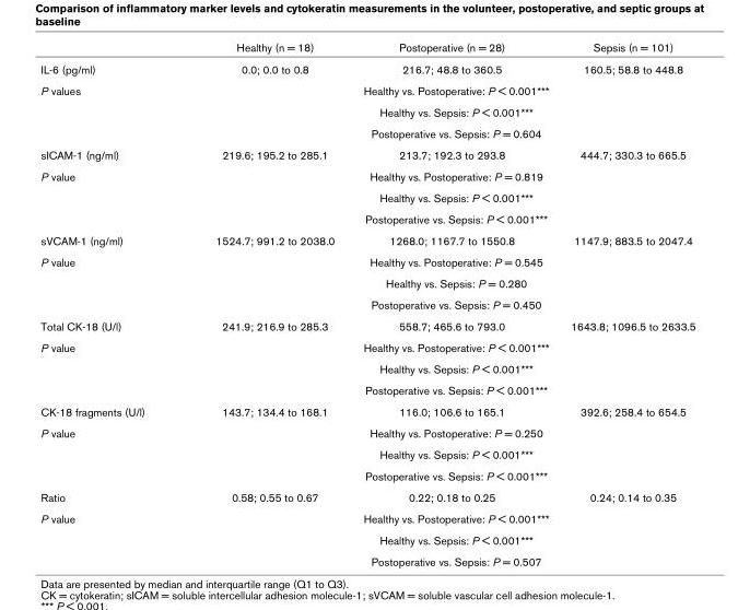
<table><thead><tr><td></td><td>Healthy (n = 18)</td><td>Postoperative (n = 28)</td><td>Sepsis (n = 101)</td></tr></thead><tbody><tr><td>IL-6 (pg/ml)</td><td>0.0; 0.0 to 0.8</td><td>216.7; 48.8 to 360.5</td><td>160.5; 58.8 to 448.8</td></tr><tr><td rowspan="3">P values</td><td colspan="3">Healthy vs. Postoperative: P &lt; 0.001***</td></tr><tr><td colspan="3">Healthy vs. Sepsis: P &lt; 0.001***</td></tr><tr><td colspan="3">Postoperative vs. Sepsis: P = 0.604</td></tr><tr><td>sICAM-1 (ng/ml)</td><td>219.6; 195.2 to 285.1</td><td>213.7; 192.3 to 293.8</td><td>444.7; 330.3 to 665.5</td></tr><tr><td rowspan="3">P value</td><td colspan="3">Healthy vs. Postoperative: P = 0.819</td></tr><tr><td colspan="3">Healthy vs. Sepsis: P &lt; 0.001***</td></tr><tr><td colspan="3">Postoperative vs. Sepsis: P &lt; 0.001***</td></tr><tr><td>sVCAM-1 (ng/ml)</td><td>1524.7; 991.2 to 2038.0</td><td>1268.0; 1167.7 to 1550.8</td><td>1147.9; 883.5 to 2047.4</td></tr><tr><td rowspan="3">P value</td><td colspan="3">Healthy vs. Postoperative: P = 0.545</td></tr><tr><td colspan="3">Healthy vs. Sepsis: P = 0.280</td></tr><tr><td colspan="3">Postoperative vs. Sepsis: P = 0.450</td></tr><tr><td>Total CK-18 (U/l)</td><td>241.9; 216.9 to 285.3</td><td>558.7; 465.6 to 793.0</td><td>1643.8; 1096.5 to 2633.5</td></tr><tr><td rowspan="3">P value</td><td colspan="3">Healthy vs. Postoperative: P &lt; 0.001***</td></tr><tr><td colspan="3">Healthy vs. Sepsis: P &lt; 0.001***</td></tr><tr><td colspan="3">Postoperative vs. Sepsis: P &lt; 0.001***</td></tr><tr><td>CK-18 fragments (U/l)</td><td>143.7; 134.4 to 168.1</td><td>116.0; 106.6 to 165.1</td><td>392.6; 258.4 to 654.5</td></tr><tr><td rowspan="3">P value</td><td colspan="3">Healthy vs. Postoperative: P = 0.250</td></tr><tr><td colspan="3">Healthy vs. Sepsis: P &lt; 0.001***</td></tr><tr><td colspan="3">Postoperative vs. Sepsis: P &lt; 0.001***</td></tr><tr><td>Ratio</td><td>0.58; 0.55 to 0.67</td><td>0.22; 0.18 to 0.25</td><td>0.24; 0.14 to 0.35</td></tr><tr><td rowspan="3">P value</td><td colspan="3">Healthy vs. Postoperative: P &lt; 0.001***</td></tr><tr><td colspan="3">Healthy vs. Sepsis: P &lt; 0.001***</td></tr><tr><td colspan="3">Postoperative vs. Sepsis: P = 0.507</td></tr></tbody></table>